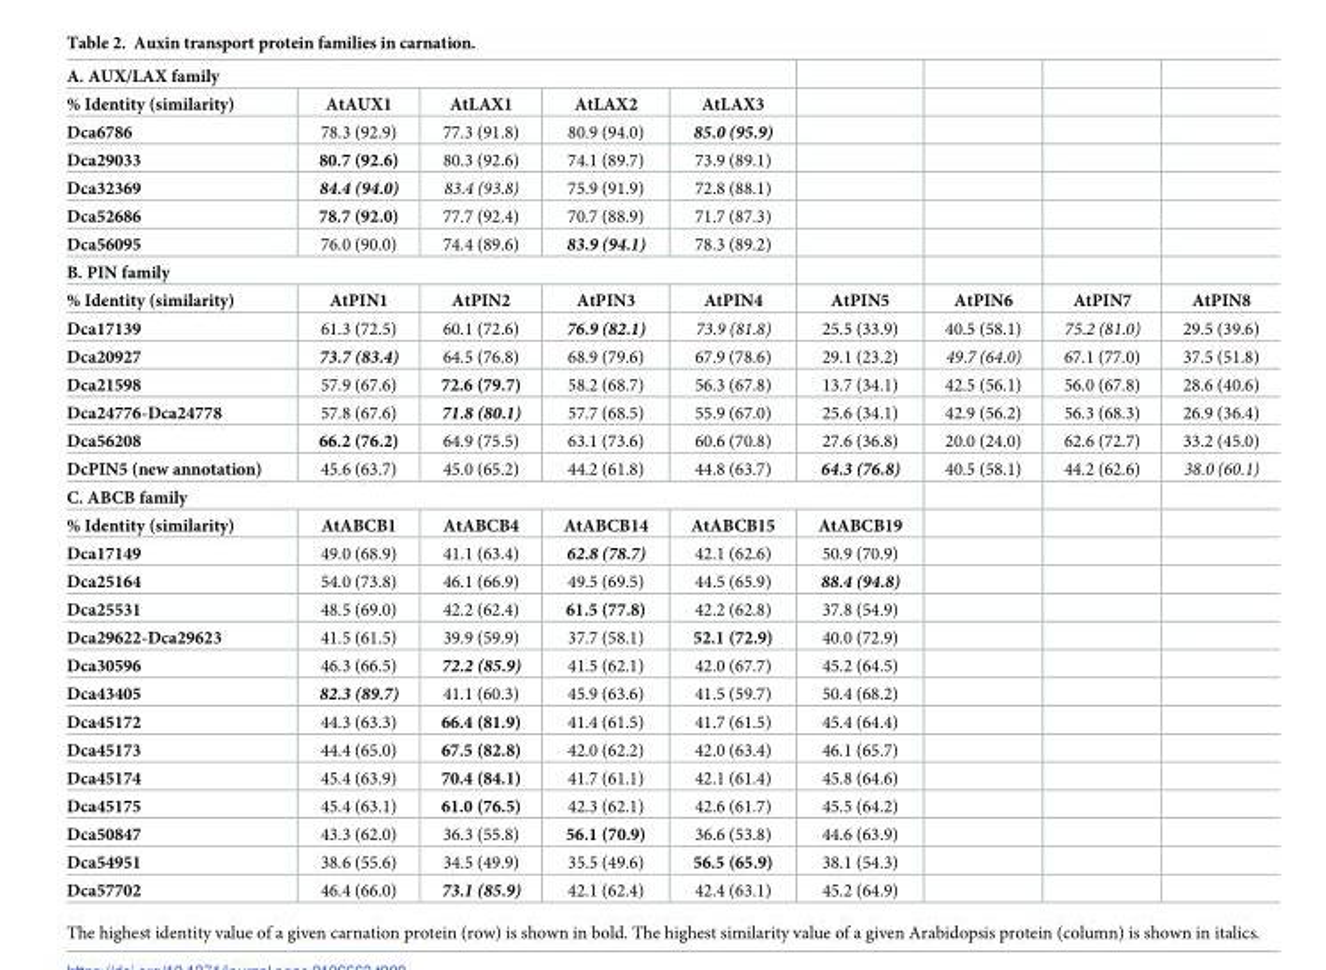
<table><tbody><tr><td colspan="9">A. AUX/LAX family</td></tr><tr><td>% Identity (similarity)</td><td>AtAUX1</td><td>AtLAX1</td><td>AtLAX2</td><td>AtLAX3</td><td></td><td></td><td></td><td></td></tr><tr><td>Dca6786</td><td>78.3 (92.9)</td><td>77.3 (91.8)</td><td>80.9 (94.0)</td><td>85.0 (95.9)</td><td></td><td></td><td></td><td></td></tr><tr><td>Dca29033</td><td>80.7 (92.6)</td><td>80.3 (92.6)</td><td>74.1 (89.7)</td><td>73.9 (89.1)</td><td></td><td></td><td></td><td></td></tr><tr><td>Dca32369</td><td>84.4 (94.0)</td><td>83.4 (93.8)</td><td>75.9 (91.9)</td><td>72.8 (88.1)</td><td></td><td></td><td></td><td></td></tr><tr><td>Dca52686</td><td>78.7 (92.0)</td><td>77.7 (92.4)</td><td>70.7 (88.9)</td><td>71.7 (87.3)</td><td></td><td></td><td></td><td></td></tr><tr><td>Dca56095</td><td>76.0 (90.0)</td><td>74.4 (89.6)</td><td>83.9 (94.1)</td><td>78.3 (89.2)</td><td></td><td></td><td></td><td></td></tr><tr><td colspan="9">B. PIN family</td></tr><tr><td>% Identity (similarity)</td><td>AtPIN1</td><td>AtPIN2</td><td>AtPIN3</td><td>AtPIN4</td><td>AtPIN5</td><td>AtPIN6</td><td>AtPIN7</td><td>AtPIN8</td></tr><tr><td>Dca17139</td><td>61.3 (72.5)</td><td>60.1 (72.6)</td><td>76.9 (82.1)</td><td>73.9 (81.8)</td><td>25.5 (33.9)</td><td>40.5 (58.1)</td><td>75.2 (81.0)</td><td>29.5 (39.6)</td></tr><tr><td>Dca20927</td><td>73.7 (83.4)</td><td>64.5 (76.8)</td><td>68.9 (79.6)</td><td>67.9 (78.6)</td><td>29.1 (23.2)</td><td>49.7 (64.0)</td><td>67.1 (77.0)</td><td>37.5 (51.8)</td></tr><tr><td>Dca21598</td><td>57.9 (67.6)</td><td>72.6 (79.7)</td><td>58.2 (68.7)</td><td>56.3 (67.8)</td><td>13.7 (34.1)</td><td>42.5 (56.1)</td><td>56.0 (67.8)</td><td>28.6 (40.6)</td></tr><tr><td>Dca24776-Dca24778</td><td>57.8 (67.6)</td><td>71.8 (80.1)</td><td>57.7 (68.5)</td><td>55.9 (67.0)</td><td>25.6 (34.1)</td><td>42.9 (56.2)</td><td>56.3 (68.3)</td><td>26.9 (36.4)</td></tr><tr><td>Dca56208</td><td>66.2 (76.2)</td><td>64.9 (75.5)</td><td>63.1 (73.6)</td><td>60.6 (70.8)</td><td>27.6 (36.8)</td><td>20.0 (24.0)</td><td>62.6 (72.7)</td><td>33.2 (45.0)</td></tr><tr><td>DcPIN5 (new annotation)</td><td>45.6 (63.7)</td><td>45.0 (65.2)</td><td>44.2 (61.8)</td><td>44.8 (63.7)</td><td>64.3 (76.8)</td><td>40.5 (58.1)</td><td>44.2 (62.6)</td><td>38.0 (60.1)</td></tr><tr><td colspan="9">C. ABCB family</td></tr><tr><td>% Identity (similarity)</td><td>AtABCB1</td><td>AtABCB4</td><td>AtABCB14</td><td>AtABCB15</td><td>AtABCB19</td><td></td><td></td><td></td></tr><tr><td>Dca17149</td><td>49.0 (68.9)</td><td>41.1 (63.4)</td><td>62.8 (78.7)</td><td>42.1 (62.6)</td><td>50.9 (70.9)</td><td></td><td></td><td></td></tr><tr><td>Dca25164</td><td>54.0 (73.8)</td><td>46.1 (66.9)</td><td>49.5 (69.5)</td><td>44.5 (65.9)</td><td>88.4 (94.8)</td><td></td><td></td><td></td></tr><tr><td>Dca25531</td><td>48.5 (69.0)</td><td>42.2 (62.4)</td><td>61.5 (77.8)</td><td>42.2 (62.8)</td><td>37.8 (54.9)</td><td></td><td></td><td></td></tr><tr><td>Dca29622-Dca29623</td><td>41.5 (61.5)</td><td>39.9 (59.9)</td><td>37.7 (58.1)</td><td>52.1 (72.9)</td><td>40.0 (72.9)</td><td></td><td></td><td></td></tr><tr><td>Dca30596</td><td>46.3 (66.5)</td><td>72.2 (85.9)</td><td>41.5 (62.1)</td><td>42.0 (67.7)</td><td>45.2 (64.5)</td><td></td><td></td><td></td></tr><tr><td>Dca43405</td><td>82.3 (89.7)</td><td>41.1 (60.3)</td><td>45.9 (63.6)</td><td>41.5 (59.7)</td><td>50.4 (68.2)</td><td></td><td></td><td></td></tr><tr><td>Dca45172</td><td>44.3 (63.3)</td><td>66.4 (81.9)</td><td>41.4 (61.5)</td><td>41.7 (61.5)</td><td>45.4 (64.4)</td><td></td><td></td><td></td></tr><tr><td>Dca45173</td><td>44.4 (65.0)</td><td>67.5 (82.8)</td><td>42.0 (62.2)</td><td>42.0 (63.4)</td><td>46.1 (65.7)</td><td></td><td></td><td></td></tr><tr><td>Dca45174</td><td>45.4 (63.9)</td><td>70.4 (84.1)</td><td>41.7 (61.1)</td><td>42.1 (61.4)</td><td>45.8 (64.6)</td><td></td><td></td><td></td></tr><tr><td>Dca45175</td><td>45.4 (63.1)</td><td>61.0 (76.5)</td><td>42.3 (62.1)</td><td>42.6 (61.7)</td><td>45.5 (64.2)</td><td></td><td></td><td></td></tr><tr><td>Dca50847</td><td>43.3 (62.0)</td><td>36.3 (55.8)</td><td>56.1 (70.9)</td><td>36.6 (53.8)</td><td>44.6 (63.9)</td><td></td><td></td><td></td></tr><tr><td>Dca54951</td><td>38.6 (55.6)</td><td>34.5 (49.9)</td><td>35.5 (49.6)</td><td>56.5 (65.9)</td><td>38.1 (54.3)</td><td></td><td></td><td></td></tr><tr><td>Dca57702</td><td>46.4 (66.0)</td><td>73.1 (85.9)</td><td>42.1 (62.4)</td><td>42.4 (63.1)</td><td>45.2 (64.9)</td><td></td><td></td><td></td></tr></tbody></table>